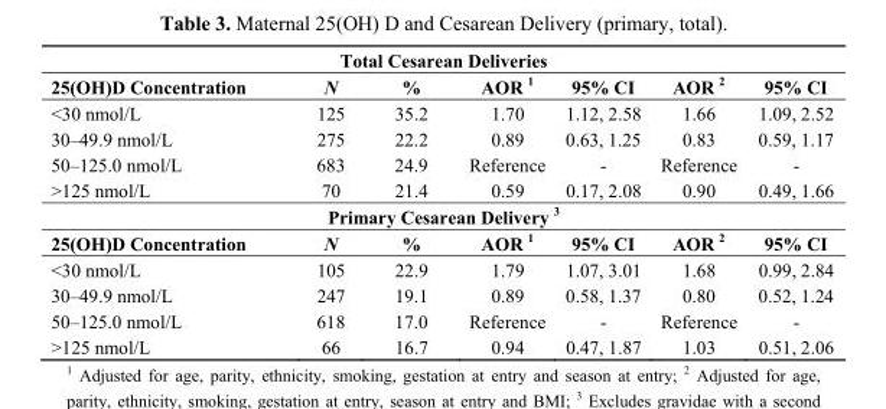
<table><tbody><tr><td colspan="7">Total Cesarean Deliveries</td></tr><tr><td>25(OH)D Concentration</td><td>N</td><td>%</td><td>AOR <sup>1</sup></td><td>95% CI</td><td>AOR <sup>2</sup></td><td>95% CI</td></tr><tr><td>&lt;30 nmol/L</td><td>125</td><td>35.2</td><td>1.70</td><td>1.12, 2.58</td><td>1.66</td><td>1.09, 2.52</td></tr><tr><td>30–49.9 nmol/L</td><td>275</td><td>22.2</td><td>0.89</td><td>0.63, 1.25</td><td>0.83</td><td>0.59, 1.17</td></tr><tr><td>50–125.0 nmol/L</td><td>683</td><td>24.9</td><td>Reference</td><td>-</td><td>Reference</td><td>-</td></tr><tr><td>&gt;125 nmol/L</td><td>70</td><td>21.4</td><td>0.59</td><td>0.17, 2.08</td><td>0.90</td><td>0.49, 1.66</td></tr><tr><td colspan="7">Primary Cesarean Delivery <sup>3</sup></td></tr><tr><td>25(OH)D Concentration</td><td>N</td><td>%</td><td>AOR <sup>1</sup></td><td>95% CI</td><td>AOR <sup>2</sup></td><td>95% CI</td></tr><tr><td>&lt;30 nmol/L</td><td>105</td><td>22.9</td><td>1.79</td><td>1.07, 3.01</td><td>1.68</td><td>0.99, 2.84</td></tr><tr><td>30–49.9 nmol/L</td><td>247</td><td>19.1</td><td>0.89</td><td>0.58, 1.37</td><td>0.80</td><td>0.52, 1.24</td></tr><tr><td>50–125.0 nmol/L</td><td>618</td><td>17.0</td><td>Reference</td><td>-</td><td>Reference</td><td>-</td></tr><tr><td>&gt;125 nmol/L</td><td>66</td><td>16.7</td><td>0.94</td><td>0.47, 1.87</td><td>1.03</td><td>0.51, 2.06</td></tr></tbody></table>